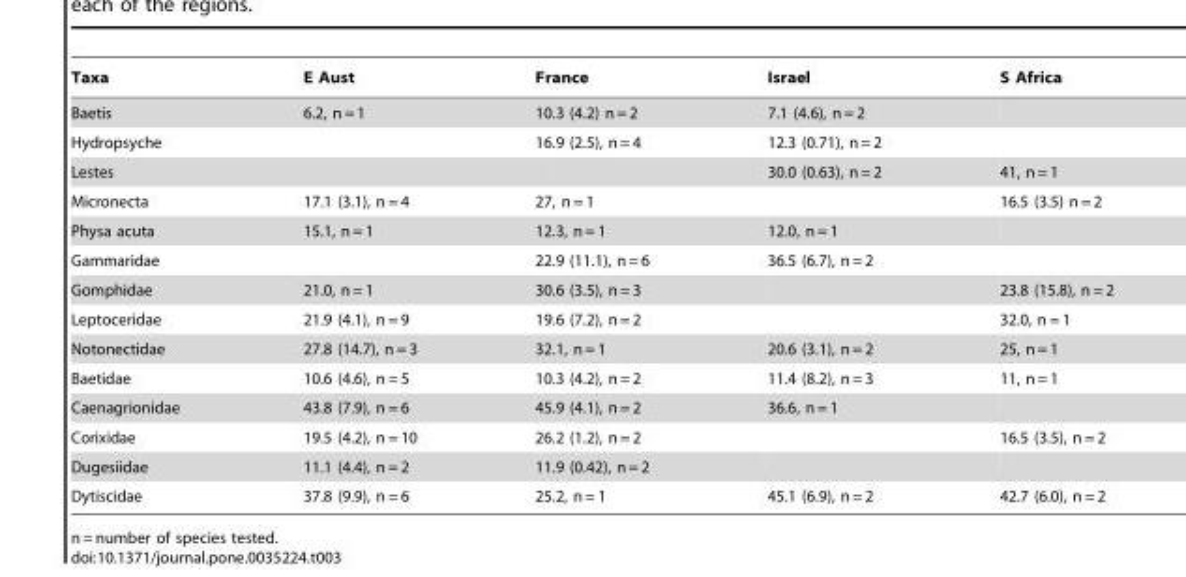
<table><thead><tr><td>Taxa</td><td>E Aust</td><td>France</td><td>Israel</td><td>S Africa</td></tr></thead><tbody><tr><td>Baetis</td><td>6.2, n = 1</td><td>10.3 (4.2) n = 2</td><td>7.1 (4.6), n = 2</td><td></td></tr><tr><td>Hydropsyche</td><td></td><td>16.9 (2.5), n = 4</td><td>12.3 (0.71), n = 2</td><td></td></tr><tr><td>Lestes</td><td></td><td></td><td>30.0 (0.63), n = 2</td><td>41, n = 1</td></tr><tr><td>Micronecta</td><td>17.1 (3.1), n = 4</td><td>27, n = 1</td><td></td><td>16.5 (3.5) n = 2</td></tr><tr><td>Physa acuta</td><td>15.1, n = 1</td><td>12.3, n = 1</td><td>12.0, n = 1</td><td></td></tr><tr><td>Gammaridae</td><td></td><td>22.9 (11.1), n = 6</td><td>36.5 (6.7), n = 2</td><td></td></tr><tr><td>Gomphidae</td><td>21.0, n = 1</td><td>30.6 (3.5), n = 3</td><td></td><td>23.8 (15.8), n = 2</td></tr><tr><td>Leptoceridae</td><td>21.9 (4.1), n = 9</td><td>19.6 (7.2), n = 2</td><td></td><td>32.0, n = 1</td></tr><tr><td>Notonectidae</td><td>27.8 (14.7), n = 3</td><td>32.1, n = 1</td><td>20.6 (3.1), n = 2</td><td>25, n = 1</td></tr><tr><td>Baetidae</td><td>10.6 (4.6), n = 5</td><td>10.3 (4.2), n = 2</td><td>11.4 (8.2), n = 3</td><td>11, n = 1</td></tr><tr><td>Caenagrionidae</td><td>43.8 (7.9), n = 6</td><td>45.9 (4.1), n = 2</td><td>36.6, n = 1</td><td></td></tr><tr><td>Corixidae</td><td>19.5 (4.2), n = 10</td><td>26.2 (1.2), n = 2</td><td></td><td>16.5 (3.5), n = 2</td></tr><tr><td>Dugesiidae</td><td>11.1 (4.4), n = 2</td><td>11.9 (0.42), n = 2</td><td></td><td></td></tr><tr><td>Dytiscidae</td><td>37.8 (9.9), n = 6</td><td>25.2, n = 1</td><td>45.1 (6.9), n = 2</td><td>42.7 (6.0), n = 2</td></tr></tbody></table>